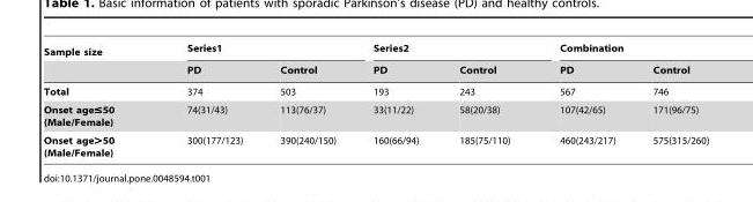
<table><thead><tr><td rowspan="2">Sample size</td><td colspan="2">Series1</td><td colspan="2">Series2</td><td colspan="2">Combination</td></tr><tr><td>PD</td><td>Control</td><td>PD</td><td>Control</td><td>PD</td><td>Control</td></tr></thead><tbody><tr><td>Total</td><td>374</td><td>503</td><td>193</td><td>243</td><td>567</td><td>746</td></tr><tr><td>Onset age≤50 (Male/Female)</td><td>74(31/43)</td><td>113(76/37)</td><td>33(11/22)</td><td>58(20/38)</td><td>107(42/65)</td><td>171(96/75)</td></tr><tr><td>Onset age&gt;50 (Male/Female)</td><td>300(177/123)</td><td>390(240/150)</td><td>160(66/94)</td><td>185(75/110)</td><td>460(243/217)</td><td>575(315/260)</td></tr></tbody></table>